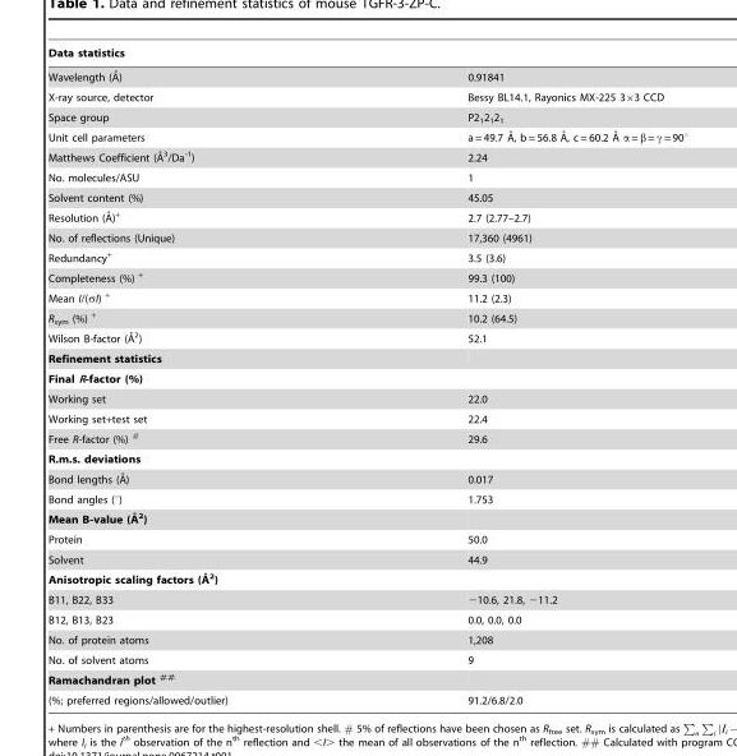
<table><thead><tr><td>Data statistics</td><td></td></tr></thead><tbody><tr><td>Wavelength (A˚)</td><td>0.91841</td></tr><tr><td>X-ray source, detector</td><td>Bessy BL14.1, Rayonics MX-225 3×3 CCD</td></tr><tr><td>Space group</td><td>P2<sub>1</sub>2<sub>1</sub>2<sub>1</sub></td></tr><tr><td>Unit cell parameters</td><td>a = 49.7 A˚, b = 56.8 A˚, c = 60.2 A˚ a = b = c = 90u</td></tr><tr><td>Matthews Coefficient (A˚3/Da-1)</td><td>2.24</td></tr><tr><td>No. molecules/ASU</td><td>1</td></tr><tr><td>Solvent content (%)</td><td>45.05</td></tr><tr><td>Resolution (A˚)+</td><td>2.7 (2.77–2.7)</td></tr><tr><td>No. of reflections (Unique)</td><td>17,360 (4961)</td></tr><tr><td>Redundancy<sup>+</sup></td><td>3.5 (3.6)</td></tr><tr><td>Completeness (%) <sup>+</sup></td><td>99.3 (100)</td></tr><tr><td>Mean I/(σI) <sup>+</sup></td><td>11.2 (2.3)</td></tr><tr><td>R<sub>sym</sub> (%) <sup>+</sup></td><td>10.2 (64.5)</td></tr><tr><td>Wilson B-factor (A˚2)</td><td>52.1</td></tr><tr><td colspan="2">Refinement statistics</td></tr><tr><td colspan="2">Final R-factor (%)</td></tr><tr><td>Working set</td><td>22.0</td></tr><tr><td>Working set+test set</td><td>22.4</td></tr><tr><td>Free R-factor (%) <sup>#</sup></td><td>29.6</td></tr><tr><td colspan="2">R.m.s. deviations</td></tr><tr><td>Bond lengths (A˚)</td><td>0.017</td></tr><tr><td>Bond angles (°)</td><td>1.753</td></tr><tr><td colspan="2">Mean B-value (A˚ 2)</td></tr><tr><td>Protein</td><td>50.0</td></tr><tr><td>Solvent</td><td>44.9</td></tr><tr><td colspan="2">Anisotropic scaling factors (A˚ 2)</td></tr><tr><td>B11, B22, B33</td><td>−10.6, 21.8, −11.2</td></tr><tr><td>B12, B13, B23</td><td>0.0, 0.0, 0.0</td></tr><tr><td>No. of protein atoms</td><td>1,208</td></tr><tr><td>No. of solvent atoms</td><td>9</td></tr><tr><td colspan="2">Ramachandran plot <sup>##</sup></td></tr><tr><td>(%; preferred regions/allowed/outlier)</td><td>91.2/6.8/2.0</td></tr></tbody></table>